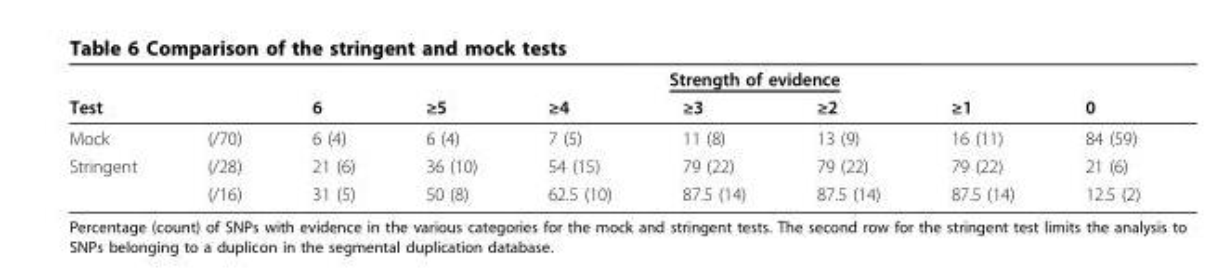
<table><thead><tr><td></td><td></td><td colspan="7">Strength of evidence</td></tr><tr><td colspan="2">Test</td><td>6</td><td>≥5</td><td>≥4</td><td>≥3</td><td>≥2</td><td>≥1</td><td>0</td></tr></thead><tbody><tr><td>Mock</td><td>(/70)</td><td>6 (4)</td><td>6 (4)</td><td>7 (5)</td><td>11 (8)</td><td>13 (9)</td><td>16 (11)</td><td>84 (59)</td></tr><tr><td rowspan="2">Stringent</td><td>(/28)</td><td>21 (6)</td><td>36 (10)</td><td>54 (15)</td><td>79 (22)</td><td>79 (22)</td><td>79 (22)</td><td>21 (6)</td></tr><tr><td>(/16)</td><td>31 (5)</td><td>50 (8)</td><td>62.5 (10)</td><td>87.5 (14)</td><td>87.5 (14)</td><td>87.5 (14)</td><td>12.5 (2)</td></tr></tbody></table>